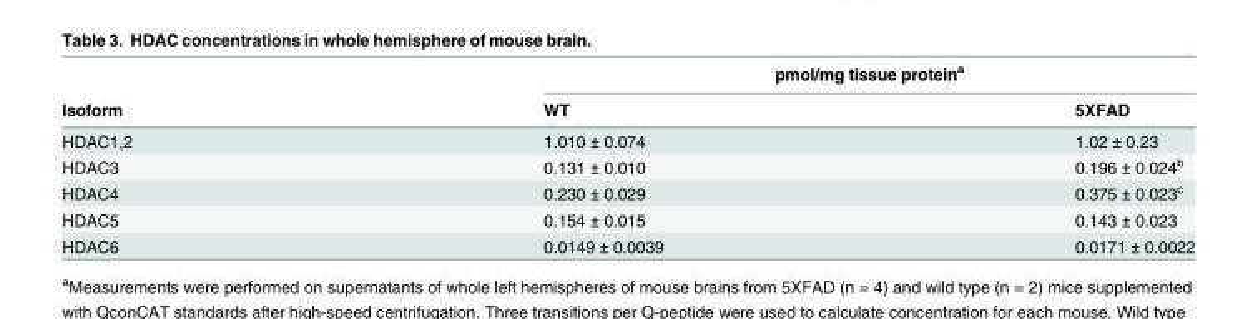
<table><thead><tr><td rowspan="2">Isoform</td><td colspan="2">pmol/mg tissue protein<sup>a</sup></td></tr><tr><td>WT</td><td>5XFAD</td></tr></thead><tbody><tr><td>HDAC1,2</td><td>1.010 ± 0.074</td><td>1.02 ± 0.23</td></tr><tr><td>HDAC3</td><td>0.131 ± 0.010</td><td>0.196 ± 0.024<sup>b</sup></td></tr><tr><td>HDAC4</td><td>0.230 ± 0.029</td><td>0.375 ± 0.023<sup>c</sup></td></tr><tr><td>HDAC5</td><td>0.154 ± 0.015</td><td>0.143 ± 0.023</td></tr><tr><td>HDAC6</td><td>0.0149 ± 0.0039</td><td>0.0171 ± 0.0022</td></tr></tbody></table>